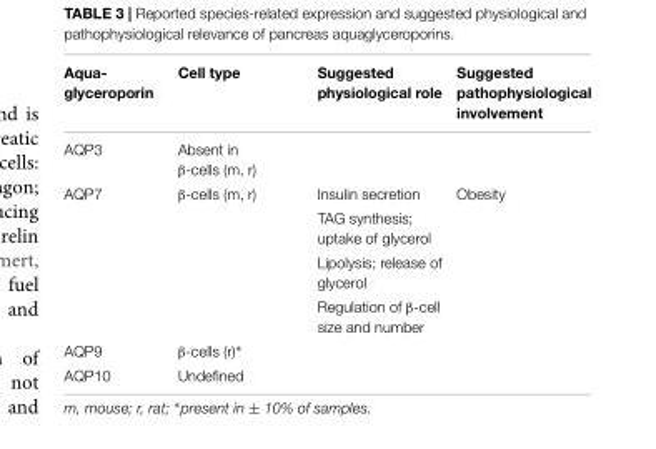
<table><thead><tr><td>Aqua- glyceroporin</td><td>Cell type</td><td>Suggested physiological role</td><td>Suggested pathophysiological involvement</td></tr></thead><tbody><tr><td>AQP3</td><td>Absent in β-cells (m, r)</td><td></td><td></td></tr><tr><td rowspan="4">AQP7</td><td>β-cells (m, r)</td><td>Insulin secretion</td><td>Obesity</td></tr><tr><td></td><td>TAG synthesis; uptake of glycerol</td><td></td></tr><tr><td></td><td>Lipolysis; release of glycerol</td><td></td></tr><tr><td></td><td>Regulation of β-cell size and number</td><td></td></tr><tr><td>AQP9</td><td>β-cells (r)∗</td><td></td><td></td></tr><tr><td>AQP10</td><td>Undefined</td><td></td><td></td></tr></tbody></table>